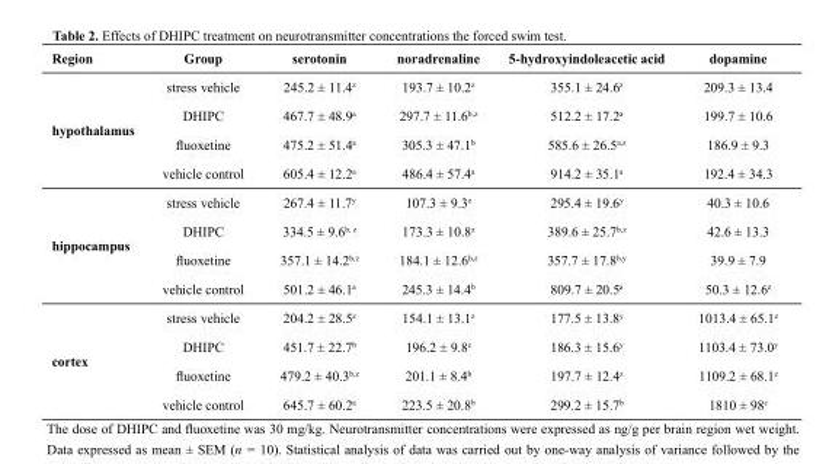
<table><thead><tr><td>Region</td><td>Group</td><td>serotonin</td><td>noradrenaline</td><td>5-hydroxyindoleacetic acid</td><td>dopamine</td></tr></thead><tbody><tr><td rowspan="4">hypothalamus</td><td>stress vehicle</td><td>245.2 ± 11.4<sup>z</sup></td><td>193.7 ± 10.2<sup>z</sup></td><td>355.1 ± 24.6<sup>z</sup></td><td>209.3 ± 13.4</td></tr><tr><td>DHIPC</td><td>467.7 ± 48.9<sup>a</sup></td><td>297.7 ± 11.6<sup>b</sup>,<sup>z</sup></td><td>512.2 ± 17.2<sup>a</sup></td><td>199.7 ± 10.6</td></tr><tr><td>fluoxetine</td><td>475.2 ± 51.4<sup>a</sup></td><td>305.3 ± 47.1<sup>b</sup></td><td>585.6 ± 26.5<sup>a</sup>,<sup>z</sup></td><td>186.9 ± 9.3</td></tr><tr><td>vehicle control</td><td>605.4 ± 12.2<sup>a</sup></td><td>486.4 ± 57.4<sup>a</sup></td><td>914.2 ± 35.1<sup>a</sup></td><td>192.4 ± 34.3</td></tr><tr><td rowspan="4">hippocampus</td><td>stress vehicle</td><td>267.4 ± 11.7<sup>y</sup></td><td>107.3 ± 9.3<sup>z</sup></td><td>295.4 ± 19.6<sup>y</sup></td><td>40.3 ± 10.6</td></tr><tr><td>DHIPC</td><td>334.5 ± 9.6b, z</td><td>173.3 ± 10.8<sup>z</sup></td><td>389.6 ± 25.7<sup>b</sup>,<sup>z</sup></td><td>42.6 ± 13.3</td></tr><tr><td>fluoxetine</td><td>357.1 ± 14.2<sup>b</sup>,<sup>z</sup></td><td>184.1 ± 12.6<sup>b</sup>,<sup>z</sup></td><td>357.7 ± 17.8<sup>b</sup>,<sup>y</sup></td><td>39.9 ± 7.9</td></tr><tr><td>vehicle control</td><td>501.2 ± 46.1<sup>a</sup></td><td>245.3 ± 14.4<sup>b</sup></td><td>809.7 ± 20.5<sup>a</sup></td><td>50.3 ± 12.6<sup>z</sup></td></tr><tr><td rowspan="4">cortex</td><td>stress vehicle</td><td>204.2 ± 28.5<sup>z</sup></td><td>154.1 ± 13.1<sup>z</sup></td><td>177.5 ± 13.8<sup>y</sup></td><td>1013.4 ± 65.1<sup>z</sup></td></tr><tr><td>DHIPC</td><td>451.7 ± 22.7<sup>b</sup></td><td>196.2 ± 9.8<sup>c</sup></td><td>186.3 ± 15.6<sup>y</sup></td><td>1103.4 ± 73.0<sup>y</sup></td></tr><tr><td>fluoxetine</td><td>479.2 ± 40.3<sup>b</sup>,<sup>z</sup></td><td>201.1 ± 8.4<sup>b</sup></td><td>197.7 ± 12.4<sup>z</sup></td><td>1109.2 ± 68.1<sup>z</sup></td></tr><tr><td>vehicle control</td><td>645.7 ± 60.2<sup>a</sup></td><td>223.5 ± 20.8<sup>b</sup></td><td>299.2 ± 15.7<sup>b</sup></td><td>1810 ± 98<sup>c</sup></td></tr></tbody></table>